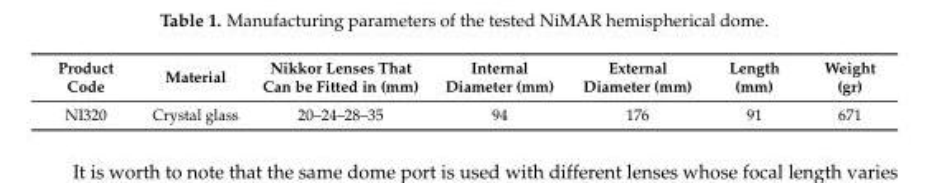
<table><thead><tr><td>Product Code</td><td>Material</td><td>Nikkor Lenses That Can be Fitted in (mm)</td><td>Internal Diameter (mm)</td><td>External Diameter (mm)</td><td>Length (mm)</td><td>Weight (gr)</td></tr></thead><tbody><tr><td>NI320</td><td>Crystal glass</td><td>20–24–28–35</td><td>94</td><td>176</td><td>91</td><td>671</td></tr></tbody></table>